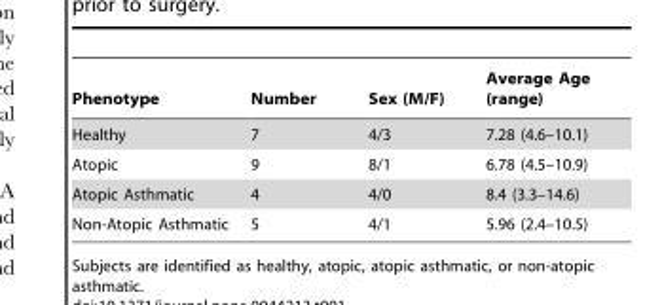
<table><thead><tr><td>Phenotype</td><td>Number</td><td>Sex (M/F)</td><td>Average Age (range)</td></tr></thead><tbody><tr><td>Healthy</td><td>7</td><td>4/3</td><td>7.28 (4.6–10.1)</td></tr><tr><td>Atopic</td><td>9</td><td>8/1</td><td>6.78 (4.5–10.9)</td></tr><tr><td>Atopic Asthmatic</td><td>4</td><td>4/0</td><td>8.4 (3.3–14.6)</td></tr><tr><td>Non-Atopic Asthmatic</td><td>5</td><td>4/1</td><td>5.96 (2.4–10.5)</td></tr></tbody></table>